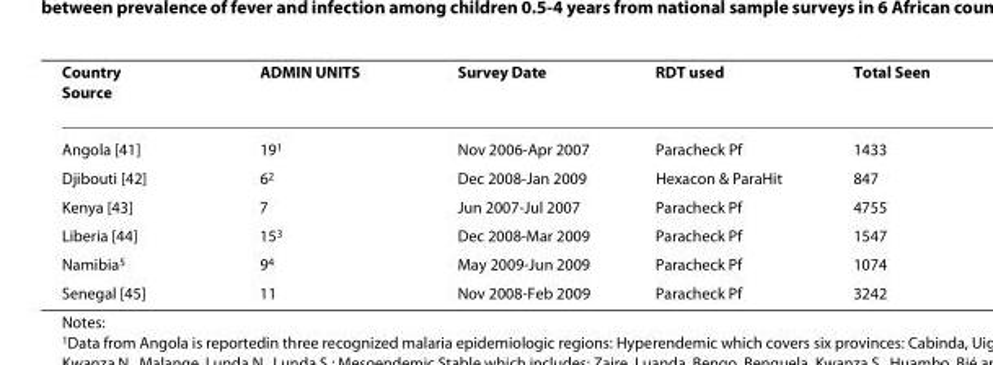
<table><thead><tr><td>Country Source</td><td>ADMIN UNITS</td><td>Survey Date</td><td>RDT used</td><td>Total Seen</td></tr></thead><tbody><tr><td>Angola [41]</td><td>19<sup>1</sup></td><td>Nov 2006-Apr 2007</td><td>Paracheck Pf</td><td>1433</td></tr><tr><td>Djibouti [42]</td><td>6<sup>2</sup></td><td>Dec 2008-Jan 2009</td><td>Hexacon &amp; ParaHit</td><td>847</td></tr><tr><td>Kenya [43]</td><td>7</td><td>Jun 2007-Jul 2007</td><td>Paracheck Pf</td><td>4755</td></tr><tr><td>Liberia [44]</td><td>15<sup>3</sup></td><td>Dec 2008-Mar 2009</td><td>Paracheck Pf</td><td>1547</td></tr><tr><td>Namibia<sup>5</sup></td><td>9<sup>4</sup></td><td>May 2009-Jun 2009</td><td>Paracheck Pf</td><td>1074</td></tr><tr><td>Senegal [45]</td><td>11</td><td>Nov 2008-Feb 2009</td><td>Paracheck Pf</td><td>3242</td></tr></tbody></table>